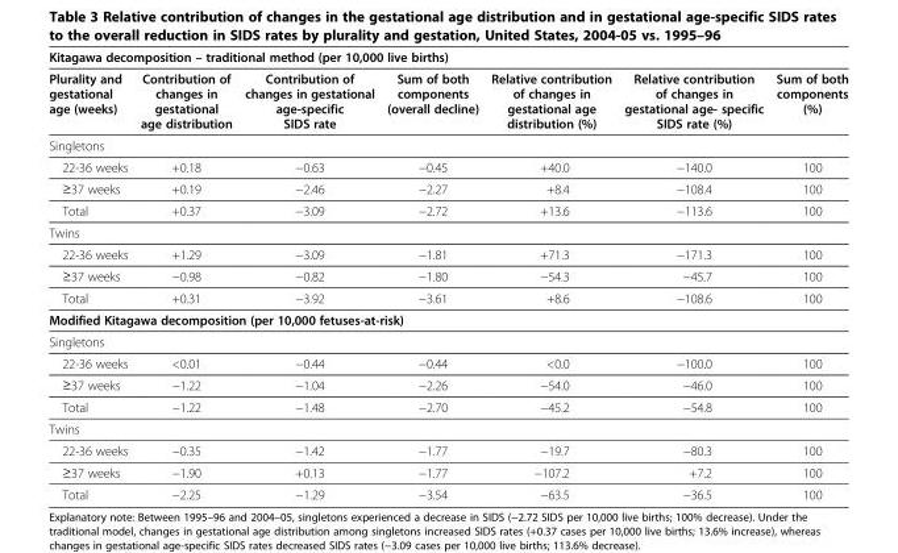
<table><thead><tr><td colspan="7">Kitagawa decomposition – traditional method (per 10,000 live births)</td></tr><tr><td>Plurality and gestational age (weeks)</td><td>Contribution of changes in gestational age distribution</td><td>Contribution of changes in gestational age-specific SIDS rate</td><td>Sum of both components (overall decline)</td><td>Relative contribution of changes in gestational age distribution (%)</td><td>Relative contribution of changes in gestational age- specific SIDS rate (%)</td><td>Sum of both components (%)</td></tr></thead><tbody><tr><td colspan="7">Singletons</td></tr><tr><td>22-36 weeks</td><td>+0.18</td><td>−0.63</td><td>−0.45</td><td>+40.0</td><td>−140.0</td><td>100</td></tr><tr><td>≥37 weeks</td><td>+0.19</td><td>−2.46</td><td>−2.27</td><td>+8.4</td><td>−108.4</td><td>100</td></tr><tr><td>Total</td><td>+0.37</td><td>−3.09</td><td>−2.72</td><td>+13.6</td><td>−113.6</td><td>100</td></tr><tr><td colspan="7">Twins</td></tr><tr><td>22-36 weeks</td><td>+1.29</td><td>−3.09</td><td>−1.81</td><td>+71.3</td><td>−171.3</td><td>100</td></tr><tr><td>≥37 weeks</td><td>−0.98</td><td>−0.82</td><td>−1.80</td><td>−54.3</td><td>−45.7</td><td>100</td></tr><tr><td>Total</td><td>+0.31</td><td>−3.92</td><td>−3.61</td><td>+8.6</td><td>−108.6</td><td>100</td></tr><tr><td colspan="7">Modified Kitagawa decomposition (per 10,000 fetuses-at-risk)</td></tr><tr><td colspan="7">Singletons</td></tr><tr><td>22-36 weeks</td><td>&lt;0.01</td><td>−0.44</td><td>−0.44</td><td>&lt;0.0</td><td>−100.0</td><td>100</td></tr><tr><td>≥37 weeks</td><td>−1.22</td><td>−1.04</td><td>−2.26</td><td>−54.0</td><td>−46.0</td><td>100</td></tr><tr><td>Total</td><td>−1.22</td><td>−1.48</td><td>−2.70</td><td>−45.2</td><td>−54.8</td><td>100</td></tr><tr><td colspan="7">Twins</td></tr><tr><td>22-36 weeks</td><td>−0.35</td><td>−1.42</td><td>−1.77</td><td>−19.7</td><td>−80.3</td><td>100</td></tr><tr><td>≥37 weeks</td><td>−1.90</td><td>+0.13</td><td>−1.77</td><td>−107.2</td><td>+7.2</td><td>100</td></tr><tr><td>Total</td><td>−2.25</td><td>−1.29</td><td>−3.54</td><td>−63.5</td><td>−36.5</td><td>100</td></tr></tbody></table>